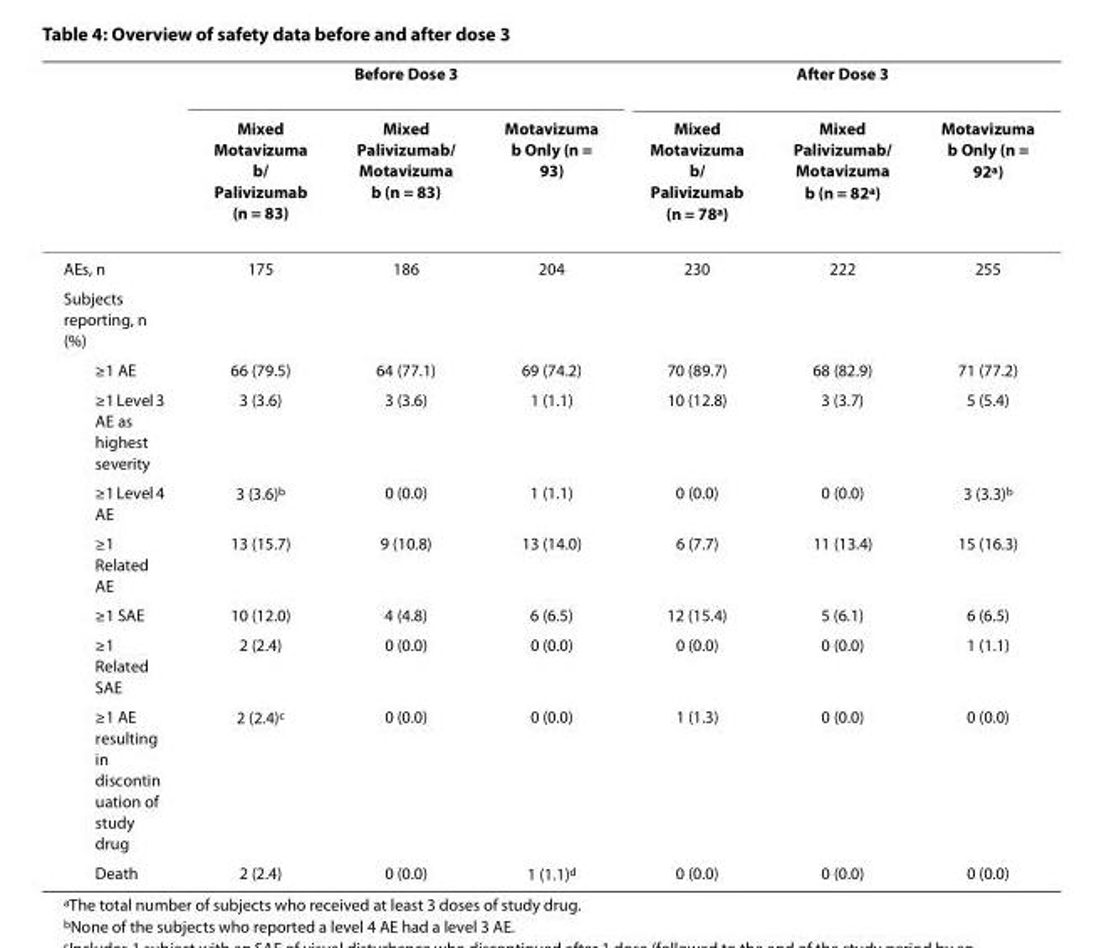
<table><thead><tr><td rowspan="2"></td><td colspan="3">Before Dose 3</td><td colspan="3">After Dose 3</td></tr><tr><td>Mixed Motavizuma b/ Palivizumab (n = 83)</td><td>Mixed Palivizumab/ Motavizuma b (n = 83)</td><td>Motavizuma b Only (n = 93)</td><td>Mixed Motavizuma b/ Palivizumab (n = 78<sup>a</sup>)</td><td>Mixed Palivizumab/ Motavizuma b (n = 82<sup>a</sup>)</td><td>Motavizuma b Only (n = 92<sup>a</sup>)</td></tr></thead><tbody><tr><td>AEs, n</td><td>175</td><td>186</td><td>204</td><td>230</td><td>222</td><td>255</td></tr><tr><td colspan="7">Subjects reporting, n (%)</td></tr><tr><td>≥1 AE</td><td>66 (79.5)</td><td>64 (77.1)</td><td>69 (74.2)</td><td>70 (89.7)</td><td>68 (82.9)</td><td>71 (77.2)</td></tr><tr><td>≥1 Level 3 AE as highest severity</td><td>3 (3.6)</td><td>3 (3.6)</td><td>1 (1.1)</td><td>10 (12.8)</td><td>3 (3.7)</td><td>5 (5.4)</td></tr><tr><td>≥1 Level 4 AE</td><td>3 (3.6)<sup>b</sup></td><td>0 (0.0)</td><td>1 (1.1)</td><td>0 (0.0)</td><td>0 (0.0)</td><td>3 (3.3)<sup>b</sup></td></tr><tr><td>≥1 Related AE</td><td>13 (15.7)</td><td>9 (10.8)</td><td>13 (14.0)</td><td>6 (7.7)</td><td>11 (13.4)</td><td>15 (16.3)</td></tr><tr><td>≥1 SAE</td><td>10 (12.0)</td><td>4 (4.8)</td><td>6 (6.5)</td><td>12 (15.4)</td><td>5 (6.1)</td><td>6 (6.5)</td></tr><tr><td>≥1 Related SAE</td><td>2 (2.4)</td><td>0 (0.0)</td><td>0 (0.0)</td><td>0 (0.0)</td><td>0 (0.0)</td><td>1 (1.1)</td></tr><tr><td>≥1 AE resulting in discontin uation of study drug</td><td>2 (2.4)<sup>c</sup></td><td>0 (0.0)</td><td>0 (0.0)</td><td>1 (1.3)</td><td>0 (0.0)</td><td>0 (0.0)</td></tr><tr><td>Death</td><td>2 (2.4)</td><td>0 (0.0)</td><td>1 (1.1)<sup>d</sup></td><td>0 (0.0)</td><td>0 (0.0)</td><td>0 (0.0)</td></tr></tbody></table>